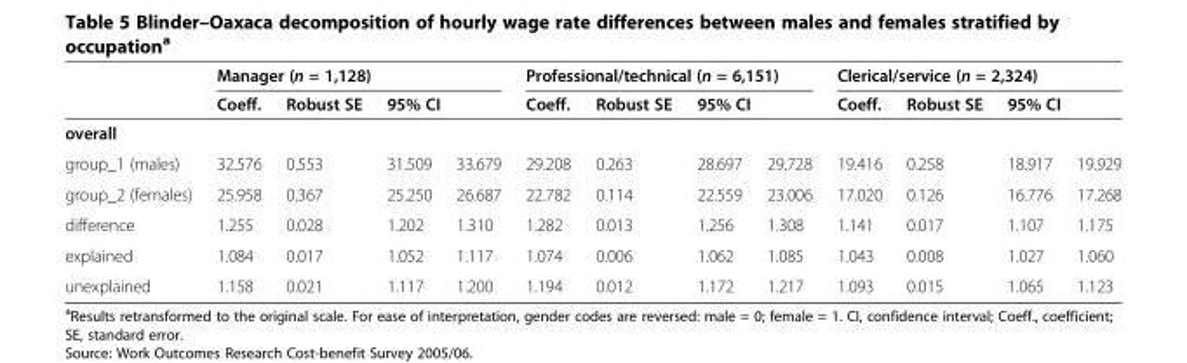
<table><thead><tr><td rowspan="3">overall</td><td colspan="4">Manager (n = 1,128)</td><td colspan="4">Professional/technical (n = 6,151)</td><td colspan="4">Clerical/service (n = 2,324)</td></tr><tr><td rowspan="2">Coeff.</td><td rowspan="2">Robust SE</td><td colspan="2">95% CI</td><td rowspan="2">Coeff.</td><td rowspan="2">Robust SE</td><td colspan="2">95% CI</td><td rowspan="2">Coeff.</td><td rowspan="2">Robust SE</td><td colspan="2">95% CI</td></tr><tr><td></td><td></td><td></td><td></td><td></td><td></td></tr></thead><tbody><tr><td>group_1 (males)</td><td>32.576</td><td>0.553</td><td>31.509</td><td>33.679</td><td>29.208</td><td>0.263</td><td>28.697</td><td>29.728</td><td>19.416</td><td>0.258</td><td>18.917</td><td>19.929</td></tr><tr><td>group_2 (females)</td><td>25.958</td><td>0.367</td><td>25.250</td><td>26.687</td><td>22.782</td><td>0.114</td><td>22.559</td><td>23.006</td><td>17.020</td><td>0.126</td><td>16.776</td><td>17.268</td></tr><tr><td>difference</td><td>1.255</td><td>0.028</td><td>1.202</td><td>1.310</td><td>1.282</td><td>0.013</td><td>1.256</td><td>1.308</td><td>1.141</td><td>0.017</td><td>1.107</td><td>1.175</td></tr><tr><td>explained</td><td>1.084</td><td>0.017</td><td>1.052</td><td>1.117</td><td>1.074</td><td>0.006</td><td>1.062</td><td>1.085</td><td>1.043</td><td>0.008</td><td>1.027</td><td>1.060</td></tr><tr><td>unexplained</td><td>1.158</td><td>0.021</td><td>1.117</td><td>1.200</td><td>1.194</td><td>0.012</td><td>1.172</td><td>1.217</td><td>1.093</td><td>0.015</td><td>1.065</td><td>1.123</td></tr></tbody></table>